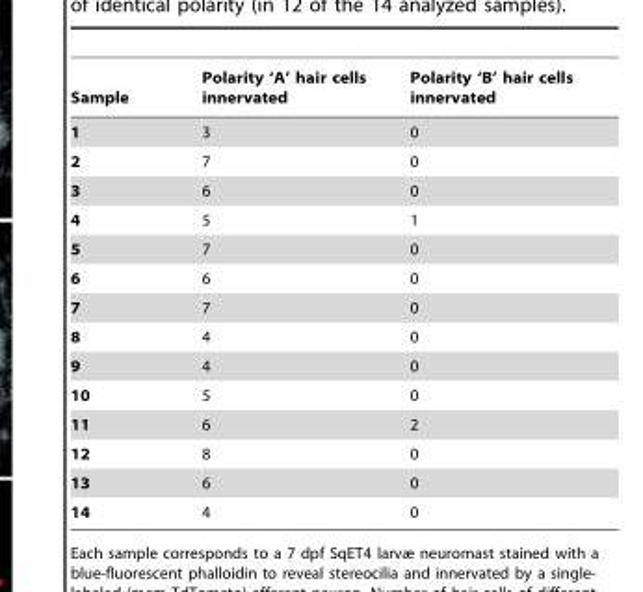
<table><thead><tr><td>Sample</td><td>Polarity ‘A’ hair cells innervated</td><td>Polarity ‘B’ hair cells innervated</td></tr></thead><tbody><tr><td>1</td><td>3</td><td>0</td></tr><tr><td>2</td><td>7</td><td>0</td></tr><tr><td>3</td><td>6</td><td>0</td></tr><tr><td>4</td><td>5</td><td>1</td></tr><tr><td>5</td><td>7</td><td>0</td></tr><tr><td>6</td><td>6</td><td>0</td></tr><tr><td>7</td><td>7</td><td>0</td></tr><tr><td>8</td><td>4</td><td>0</td></tr><tr><td>9</td><td>4</td><td>0</td></tr><tr><td>10</td><td>5</td><td>0</td></tr><tr><td>11</td><td>6</td><td>2</td></tr><tr><td>12</td><td>8</td><td>0</td></tr><tr><td>13</td><td>6</td><td>0</td></tr><tr><td>14</td><td>4</td><td>0</td></tr></tbody></table>